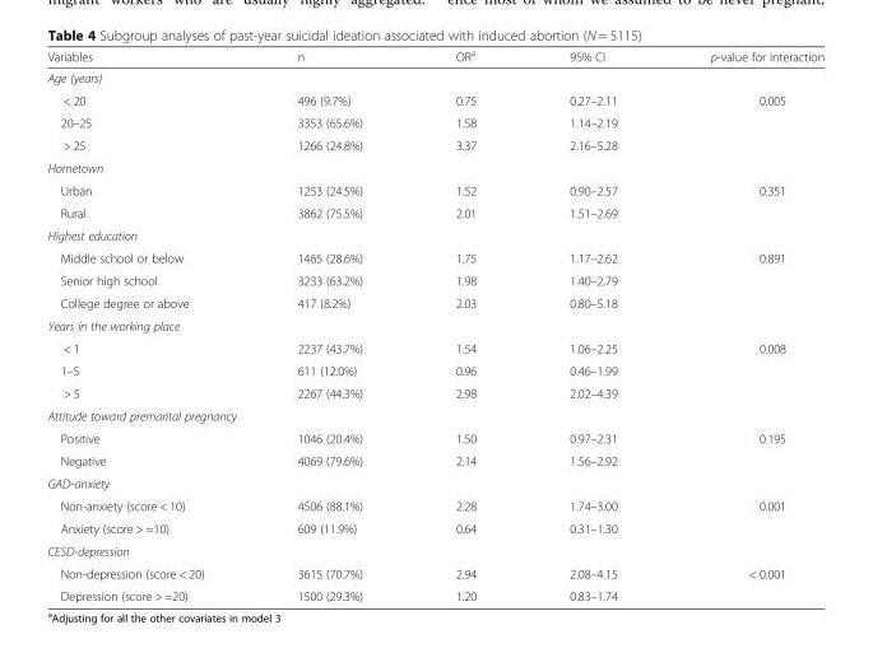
<table><thead><tr><td>Variables</td><td>n</td><td>OR<sup>a</sup></td><td>95% CI</td><td>p-value for interaction</td></tr></thead><tbody><tr><td colspan="5">Age (years)</td></tr><tr><td>&lt; 20</td><td>496 (9.7%)</td><td>0.75</td><td>0.27–2.11</td><td>0.005</td></tr><tr><td>20–25</td><td>3353 (65.6%)</td><td>1.58</td><td>1.14–2.19</td><td></td></tr><tr><td>&gt; 25</td><td>1266 (24.8%)</td><td>3.37</td><td>2.16–5.28</td><td></td></tr><tr><td colspan="5">Hometown</td></tr><tr><td>Urban</td><td>1253 (24.5%)</td><td>1.52</td><td>0.90–2.57</td><td>0.351</td></tr><tr><td>Rural</td><td>3862 (75.5%)</td><td>2.01</td><td>1.51–2.69</td><td></td></tr><tr><td colspan="5">Highest education</td></tr><tr><td>Middle school or below</td><td>1465 (28.6%)</td><td>1.75</td><td>1.17–2.62</td><td>0.891</td></tr><tr><td>Senior high school</td><td>3233 (63.2%)</td><td>1.98</td><td>1.40–2.79</td><td></td></tr><tr><td>College degree or above</td><td>417 (8.2%)</td><td>2.03</td><td>0.80–5.18</td><td></td></tr><tr><td colspan="5">Years in the working place</td></tr><tr><td>&lt; 1</td><td>2237 (43.7%)</td><td>1.54</td><td>1.06–2.25</td><td>0.008</td></tr><tr><td>1–5</td><td>611 (12.0%)</td><td>0.96</td><td>0.46–1.99</td><td></td></tr><tr><td>&gt; 5</td><td>2267 (44.3%)</td><td>2.98</td><td>2.02–4.39</td><td></td></tr><tr><td colspan="5">Attitude toward premarital pregnancy</td></tr><tr><td>Positive</td><td>1046 (20.4%)</td><td>1.50</td><td>0.97–2.31</td><td>0.195</td></tr><tr><td>Negative</td><td>4069 (79.6%)</td><td>2.14</td><td>1.56–2.92</td><td></td></tr><tr><td colspan="5">GAD-anxiety</td></tr><tr><td>Non-anxiety (score &lt; 10)</td><td>4506 (88.1%)</td><td>2.28</td><td>1.74–3.00</td><td>0.001</td></tr><tr><td>Anxiety (score &gt; =10)</td><td>609 (11.9%)</td><td>0.64</td><td>0.31–1.30</td><td></td></tr><tr><td colspan="5">CESD-depression</td></tr><tr><td>Non-depression (score &lt; 20)</td><td>3615 (70.7%)</td><td>2.94</td><td>2.08–4.15</td><td>&lt; 0.001</td></tr><tr><td>Depression (score &gt; =20)</td><td>1500 (29.3%)</td><td>1.20</td><td>0.83–1.74</td><td></td></tr></tbody></table>